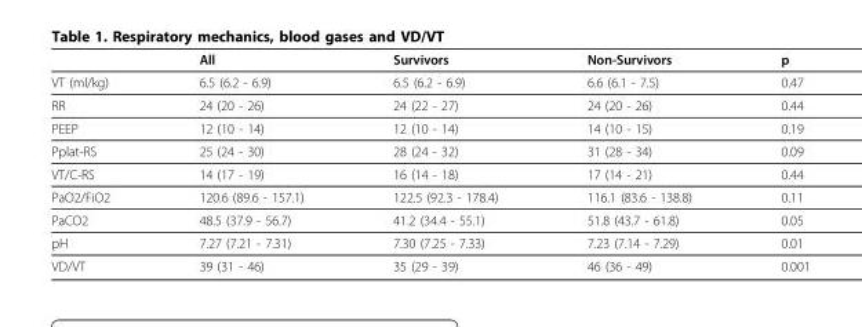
<table><thead><tr><td></td><td>All</td><td>Survivors</td><td>Non-Survivors</td><td>p</td></tr></thead><tbody><tr><td>VT (ml/kg)</td><td>6.5 (6.2 - 6.9)</td><td>6.5 (6.2 - 6.9)</td><td>6.6 (6.1 - 7.5)</td><td>0.47</td></tr><tr><td>RR</td><td>24 (20 - 26)</td><td>24 (22 - 27)</td><td>24 (20 - 26)</td><td>0.44</td></tr><tr><td>PEEP</td><td>12 (10 - 14)</td><td>12 (10 - 14)</td><td>14 (10 - 15)</td><td>0.19</td></tr><tr><td>Pplat-RS</td><td>25 (24 - 30)</td><td>28 (24 - 32)</td><td>31 (28 - 34)</td><td>0.09</td></tr><tr><td>VT/C-RS</td><td>14 (17 - 19)</td><td>16 (14 - 18)</td><td>17 (14 - 21)</td><td>0.44</td></tr><tr><td>PaO2/FiO2</td><td>120.6 (89.6 - 157.1)</td><td>122.5 (92.3 - 178.4)</td><td>116.1 (83.6 - 138.8)</td><td>0.11</td></tr><tr><td>PaCO2</td><td>48.5 (37.9 - 56.7)</td><td>41.2 (34.4 - 55.1)</td><td>51.8 (43.7 - 61.8)</td><td>0.05</td></tr><tr><td>pH</td><td>7.27 (7.21 - 7.31)</td><td>7.30 (7.25 - 7.33)</td><td>7.23 (7.14 - 7.29)</td><td>0.01</td></tr><tr><td>VD/VT</td><td>39 (31 - 46)</td><td>35 (29 - 39)</td><td>46 (36 - 49)</td><td>0.001</td></tr></tbody></table>